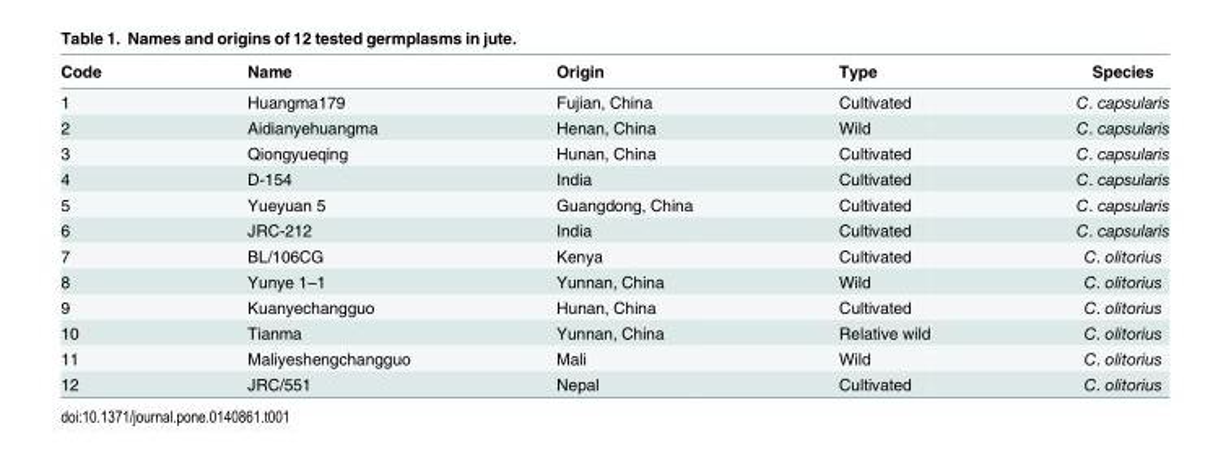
<table><thead><tr><td>Code</td><td>Name</td><td>Origin</td><td>Type</td><td>Species</td></tr></thead><tbody><tr><td>1</td><td>Huangma179</td><td>Fujian, China</td><td>Cultivated</td><td>C. capsularis</td></tr><tr><td>2</td><td>Aidianyehuangma</td><td>Henan, China</td><td>Wild</td><td>C. capsularis</td></tr><tr><td>3</td><td>Qiongyueqing</td><td>Hunan, China</td><td>Cultivated</td><td>C. capsularis</td></tr><tr><td>4</td><td>D-154</td><td>India</td><td>Cultivated</td><td>C. capsularis</td></tr><tr><td>5</td><td>Yueyuan 5</td><td>Guangdong, China</td><td>Cultivated</td><td>C. capsularis</td></tr><tr><td>6</td><td>JRC-212</td><td>India</td><td>Cultivated</td><td>C. capsularis</td></tr><tr><td>7</td><td>BL/106CG</td><td>Kenya</td><td>Cultivated</td><td>C. olitorius</td></tr><tr><td>8</td><td>Yunye 1–1</td><td>Yunnan, China</td><td>Wild</td><td>C. olitorius</td></tr><tr><td>9</td><td>Kuanyechangguo</td><td>Hunan, China</td><td>Cultivated</td><td>C. olitorius</td></tr><tr><td>10</td><td>Tianma</td><td>Yunnan, China</td><td>Relative wild</td><td>C. olitorius</td></tr><tr><td>11</td><td>Maliyeshengchangguo</td><td>Mali</td><td>Wild</td><td>C. olitorius</td></tr><tr><td>12</td><td>JRC/551</td><td>Nepal</td><td>Cultivated</td><td>C. olitorius</td></tr></tbody></table>